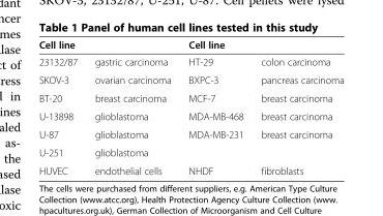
<table><thead><tr><td colspan="2">Cell line</td><td colspan="2">Cell line</td></tr><tr><td>23132/87</td><td>gastric carcinoma</td><td>HT-29</td><td>colon carcinoma</td></tr></thead><tbody><tr><td>SKOV-3</td><td>ovarian carcinoma</td><td>BXPC-3</td><td>pancreas carcinoma</td></tr><tr><td>BT-20</td><td>breast carcinoma</td><td>MCF-7</td><td>breast carcinoma</td></tr><tr><td>U-13898</td><td>glioblastoma</td><td>MDA-MB-468</td><td>breast carcinoma</td></tr><tr><td>U-87</td><td>glioblastoma</td><td>MDA-MB-231</td><td>breast carcinoma</td></tr><tr><td>U-251</td><td>glioblastoma</td><td></td><td></td></tr><tr><td>HUVEC</td><td>endothelial cells</td><td>NHDF</td><td>fibroblasts</td></tr></tbody></table>